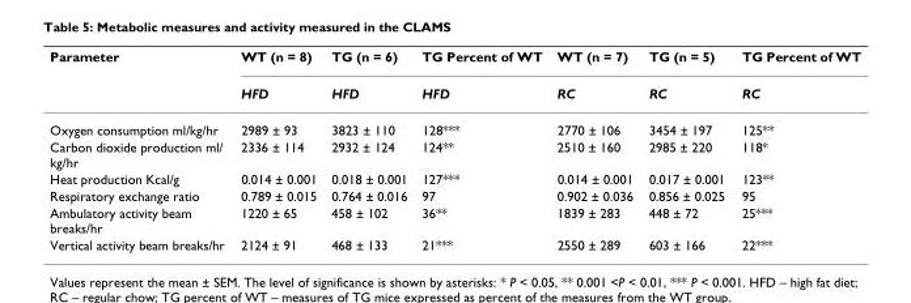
<table><thead><tr><td rowspan="2">Parameter</td><td rowspan="2">WT (n = 8) HFD</td><td rowspan="2">TG (n = 6) HFD</td><td rowspan="2">TG Percent of WT HFD</td><td rowspan="2">WT (n = 7) RC</td><td rowspan="2">TG (n = 5) RC</td><td rowspan="2">TG Percent of WT RC</td></tr><tr></tr></thead><tbody><tr><td>Oxygen consumption ml/kg/hr</td><td>2989 ± 93</td><td>3823 ± 110</td><td>128***</td><td>2770 ± 106</td><td>3454 ± 197</td><td>125**</td></tr><tr><td>Carbon dioxide production ml/ kg/hr</td><td>2336 ± 114</td><td>2932 ± 124</td><td>124**</td><td>2510 ± 160</td><td>2985 ± 220</td><td>118*</td></tr><tr><td>Heat production Kcal/g</td><td>0.014 ± 0.001</td><td>0.018 ± 0.001</td><td>127***</td><td>0.014 ± 0.001</td><td>0.017 ± 0.001</td><td>123**</td></tr><tr><td>Respiratory exchange ratio</td><td>0.789 ± 0.015</td><td>0.764 ± 0.016</td><td>97</td><td>0.902 ± 0.036</td><td>0.856 ± 0.025</td><td>95</td></tr><tr><td>Ambulatory activity beam breaks/hr</td><td>1220 ± 65</td><td>458 ± 102</td><td>36**</td><td>1839 ± 283</td><td>448 ± 72</td><td>25***</td></tr><tr><td>Vertical activity beam breaks/hr</td><td>2124 ± 91</td><td>468 ± 133</td><td>21***</td><td>2550 ± 289</td><td>603 ± 166</td><td>22***</td></tr></tbody></table>